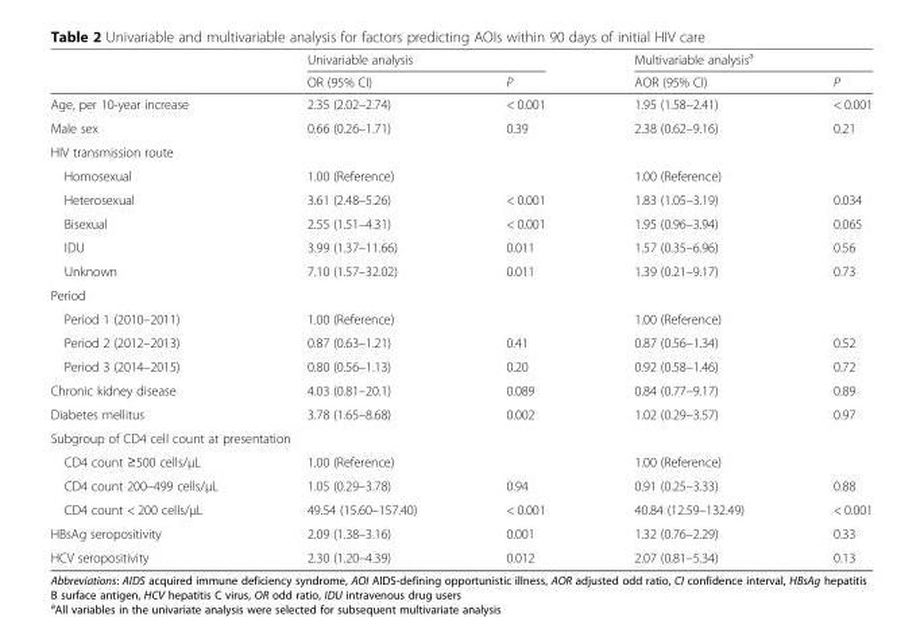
<table><thead><tr><td rowspan="2"></td><td colspan="2">Univariable analysis</td><td colspan="2">Multivariable analysis<sup>a</sup></td></tr><tr><td>OR (95% CI)</td><td>P</td><td>AOR (95% CI)</td><td>P</td></tr></thead><tbody><tr><td>Age, per 10-year increase</td><td>2.35 (2.02–2.74)</td><td>&lt; 0.001</td><td>1.95 (1.58–2.41)</td><td>&lt; 0.001</td></tr><tr><td>Male sex</td><td>0.66 (0.26–1.71)</td><td>0.39</td><td>2.38 (0.62–9.16)</td><td>0.21</td></tr><tr><td colspan="5">HIV transmission route</td></tr><tr><td>Homosexual</td><td>1.00 (Reference)</td><td></td><td>1.00 (Reference)</td><td></td></tr><tr><td>Heterosexual</td><td>3.61 (2.48–5.26)</td><td>&lt; 0.001</td><td>1.83 (1.05–3.19)</td><td>0.034</td></tr><tr><td>Bisexual</td><td>2.55 (1.51–4.31)</td><td>&lt; 0.001</td><td>1.95 (0.96–3.94)</td><td>0.065</td></tr><tr><td>IDU</td><td>3.99 (1.37–11.66)</td><td>0.011</td><td>1.57 (0.35–6.96)</td><td>0.56</td></tr><tr><td>Unknown</td><td>7.10 (1.57–32.02)</td><td>0.011</td><td>1.39 (0.21–9.17)</td><td>0.73</td></tr><tr><td colspan="5">Period</td></tr><tr><td>Period 1 (2010–2011)</td><td>1.00 (Reference)</td><td></td><td>1.00 (Reference)</td><td></td></tr><tr><td>Period 2 (2012–2013)</td><td>0.87 (0.63–1.21)</td><td>0.41</td><td>0.87 (0.56–1.34)</td><td>0.52</td></tr><tr><td>Period 3 (2014–2015)</td><td>0.80 (0.56–1.13)</td><td>0.20</td><td>0.92 (0.58–1.46)</td><td>0.72</td></tr><tr><td>Chronic kidney disease</td><td>4.03 (0.81–20.1)</td><td>0.089</td><td>0.84 (0.77–9.17)</td><td>0.89</td></tr><tr><td>Diabetes mellitus</td><td>3.78 (1.65–8.68)</td><td>0.002</td><td>1.02 (0.29–3.57)</td><td>0.97</td></tr><tr><td colspan="5">Subgroup of CD4 cell count at presentation</td></tr><tr><td>CD4 count ≥500 cells/μL</td><td>1.00 (Reference)</td><td></td><td>1.00 (Reference)</td><td></td></tr><tr><td>CD4 count 200–499 cells/μL</td><td>1.05 (0.29–3.78)</td><td>0.94</td><td>0.91 (0.25–3.33)</td><td>0.88</td></tr><tr><td>CD4 count &lt; 200 cells/μL</td><td>49.54 (15.60–157.40)</td><td>&lt; 0.001</td><td>40.84 (12.59–132.49)</td><td>&lt; 0.001</td></tr><tr><td>HBsAg seropositivity</td><td>2.09 (1.38–3.16)</td><td>0.001</td><td>1.32 (0.76–2.29)</td><td>0.33</td></tr><tr><td>HCV seropositivity</td><td>2.30 (1.20–4.39)</td><td>0.012</td><td>2.07 (0.81–5.34)</td><td>0.13</td></tr></tbody></table>